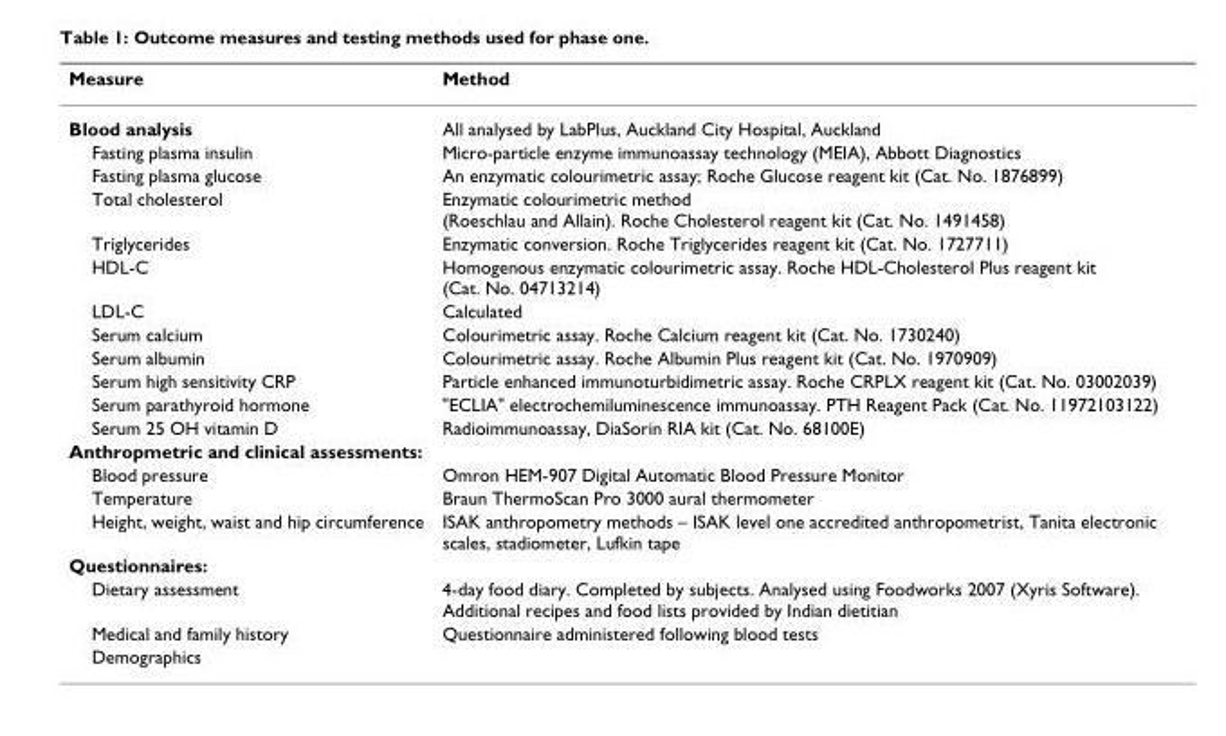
<table><thead><tr><td>Measure</td><td>Method</td></tr></thead><tbody><tr><td>Blood analysis</td><td>All analysed by LabPlus, Auckland City Hospital, Auckland</td></tr><tr><td>Fasting plasma insulin</td><td>Micro-particle enzyme immunoassay technology (MEIA), Abbott Diagnostics</td></tr><tr><td>Fasting plasma glucose</td><td>An enzymatic colourimetric assay; Roche Glucose reagent kit (Cat. No. 1876899)</td></tr><tr><td>Total cholesterol</td><td>Enzymatic colourimetric method (Roeschlau and Allain). Roche Cholesterol reagent kit (Cat. No. 1491458)</td></tr><tr><td>Triglycerides</td><td>Enzymatic conversion. Roche Triglycerides reagent kit (Cat. No. 1727711)</td></tr><tr><td>HDL-C</td><td>Homogenous enzymatic colourimetric assay. Roche HDL-Cholesterol Plus reagent kit (Cat. No. 04713214)</td></tr><tr><td>LDL-C</td><td>Calculated</td></tr><tr><td>Serum calcium</td><td>Colourimetric assay. Roche Calcium reagent kit (Cat. No. 1730240)</td></tr><tr><td>Serum albumin</td><td>Colourimetric assay. Roche Albumin Plus reagent kit (Cat. No. 1970909)</td></tr><tr><td>Serum high sensitivity CRP</td><td>Particle enhanced immunoturbidimetric assay. Roche CRPLX reagent kit (Cat. No. 03002039)</td></tr><tr><td>Serum parathyroid hormone</td><td>&quot;ECLIA&quot; electrochemiluminescence immunoassay. PTH Reagent Pack (Cat. No. 11972103122)</td></tr><tr><td>Serum 25 OH vitamin D</td><td>Radioimmunoassay, DiaSorin RIA kit (Cat. No. 68100E)</td></tr><tr><td colspan="2">Anthropmetric and clinical assessments:</td></tr><tr><td>Blood pressure</td><td>Omron HEM-907 Digital Automatic Blood Pressure Monitor</td></tr><tr><td>Temperature</td><td>Braun ThermoScan Pro 3000 aural thermometer</td></tr><tr><td>Height, weight, waist and hip circumference</td><td>ISAK anthropometry methods – ISAK level one accredited anthropometrist, Tanita electronic scales, stadiometer, Lufkin tape</td></tr><tr><td colspan="2">Questionnaires:</td></tr><tr><td>Dietary assessment</td><td>4-day food diary. Completed by subjects. Analysed using Foodworks 2007 (Xyris Software). Additional recipes and food lists provided by Indian dietitian</td></tr><tr><td>Medical and family history</td><td>Questionnaire administered following blood tests</td></tr><tr><td>Demographics</td><td></td></tr></tbody></table>